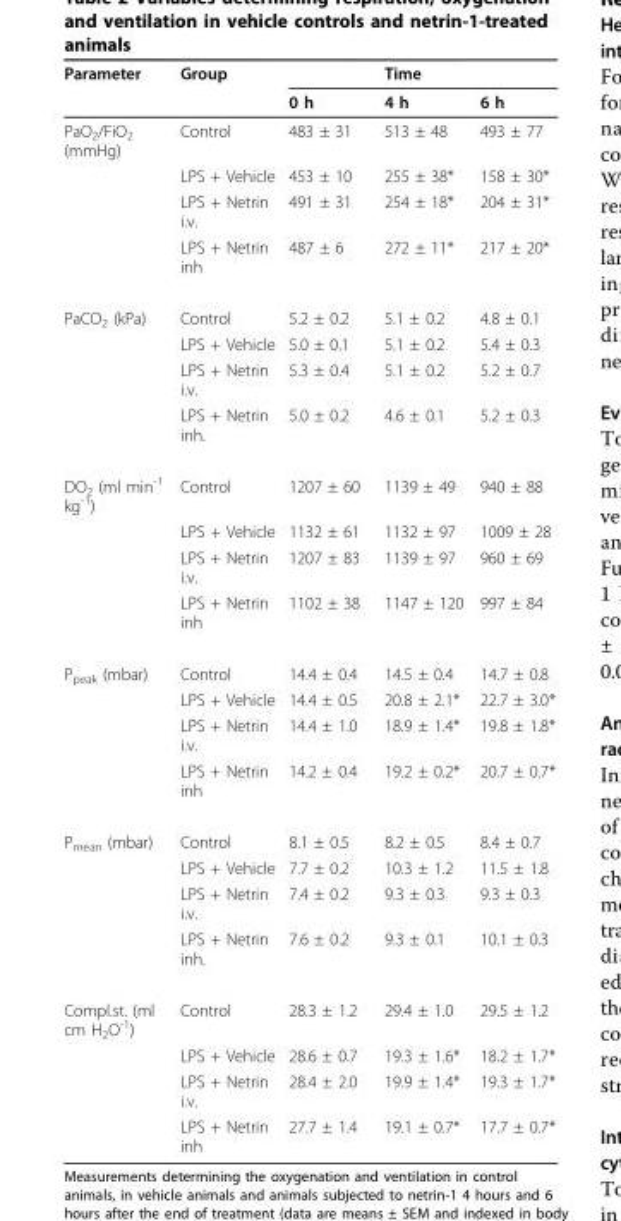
<table><thead><tr><td rowspan="2">Parameter</td><td rowspan="2">Group</td><td rowspan="2">0 h</td><td rowspan="2">Time 4 h</td><td rowspan="2">6 h</td></tr><tr></tr></thead><tbody><tr><td rowspan="4">PaO<sub>2</sub>/FiO<sub>2</sub> (mmHg)</td><td>Control</td><td>483 ± 31</td><td>513 ± 48</td><td>493 ± 77</td></tr><tr><td>LPS + Vehicle</td><td>453 ± 10</td><td>255 ± 38*</td><td>158 ± 30*</td></tr><tr><td>LPS + Netrin i.v.</td><td>491 ± 31</td><td>254 ± 18*</td><td>204 ± 31*</td></tr><tr><td>LPS + Netrin inh</td><td>487 ± 6</td><td>272 ± 11*</td><td>217 ± 20*</td></tr><tr><td rowspan="4">PaCO<sub>2</sub> (kPa)</td><td>Control</td><td>5.2 ± 0.2</td><td>5.1 ± 0.2</td><td>4.8 ± 0.1</td></tr><tr><td>LPS + Vehicle</td><td>5.0 ± 0.1</td><td>5.1 ± 0.2</td><td>5.4 ± 0.3</td></tr><tr><td>LPS + Netrin i.v.</td><td>5.3 ± 0.4</td><td>5.1 ± 0.2</td><td>5.2 ± 0.7</td></tr><tr><td>LPS + Netrin inh.</td><td>5.0 ± 0.2</td><td>4.6 ± 0.1</td><td>5.2 ± 0.3</td></tr><tr><td rowspan="4">DO<sub>2</sub> (ml min<sup>-1</sup> kg<sup>-1</sup>)</td><td>Control</td><td>1207 ± 60</td><td>1139 ± 49</td><td>940 ± 88</td></tr><tr><td>LPS + Vehicle</td><td>1132 ± 61</td><td>1132 ± 97</td><td>1009 ± 28</td></tr><tr><td>LPS + Netrin i.v.</td><td>1207 ± 83</td><td>1139 ± 97</td><td>960 ± 69</td></tr><tr><td>LPS + Netrin inh</td><td>1102 ± 38</td><td>1147 ± 120</td><td>997 ± 84</td></tr><tr><td rowspan="4">P<sub>peak</sub> (mbar)</td><td>Control</td><td>14.4 ± 0.4</td><td>14.5 ± 0.4</td><td>14.7 ± 0.8</td></tr><tr><td>LPS + Vehicle</td><td>14.4 ± 0.5</td><td>20.8 ± 2.1*</td><td>22.7 ± 3.0*</td></tr><tr><td>LPS + Netrin i.v.</td><td>14.4 ± 1.0</td><td>18.9 ± 1.4*</td><td>19.8 ± 1.8*</td></tr><tr><td>LPS + Netrin inh</td><td>14.2 ± 0.4</td><td>19.2 ± 0.2*</td><td>20.7 ± 0.7*</td></tr><tr><td rowspan="4">P<sub>mean</sub> (mbar)</td><td>Control</td><td>8.1 ± 0.5</td><td>8.2 ± 0.5</td><td>8.4 ± 0.7</td></tr><tr><td>LPS + Vehicle</td><td>7.7 ± 0.2</td><td>10.3 ± 1.2</td><td>11.5 ± 1.8</td></tr><tr><td>LPS + Netrin i.v.</td><td>7.4 ± 0.2</td><td>9.3 ± 0.3</td><td>9.3 ± 0.3</td></tr><tr><td>LPS + Netrin inh.</td><td>7.6 ± 0.2</td><td>9.3 ± 0.1</td><td>10.1 ± 0.3</td></tr><tr><td rowspan="4">Compl.st. (ml cm H<sub>2</sub>O<sup>-1</sup>)</td><td>Control</td><td>28.3 ± 1.2</td><td>29.4 ± 1.0</td><td>29.5 ± 1.2</td></tr><tr><td>LPS + Vehicle</td><td>28.6 ± 0.7</td><td>19.3 ± 1.6*</td><td>18.2 ± 1.7*</td></tr><tr><td>LPS + Netrin i.v.</td><td>28.4 ± 2.0</td><td>19.9 ± 1.4*</td><td>19.3 ± 1.7*</td></tr><tr><td>LPS + Netrin inh</td><td>27.7 ± 1.4</td><td>19.1 ± 0.7*</td><td>17.7 ± 0.7*</td></tr></tbody></table>